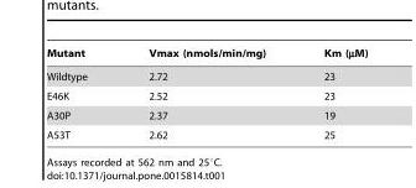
<table><thead><tr><td>Mutant</td><td>Vmax (nmols/min/mg)</td><td>Km (µM)</td></tr></thead><tbody><tr><td>Wildtype</td><td>2.72</td><td>23</td></tr><tr><td>E46K</td><td>2.52</td><td>23</td></tr><tr><td>A30P</td><td>2.37</td><td>19</td></tr><tr><td>A53T</td><td>2.62</td><td>25</td></tr></tbody></table>